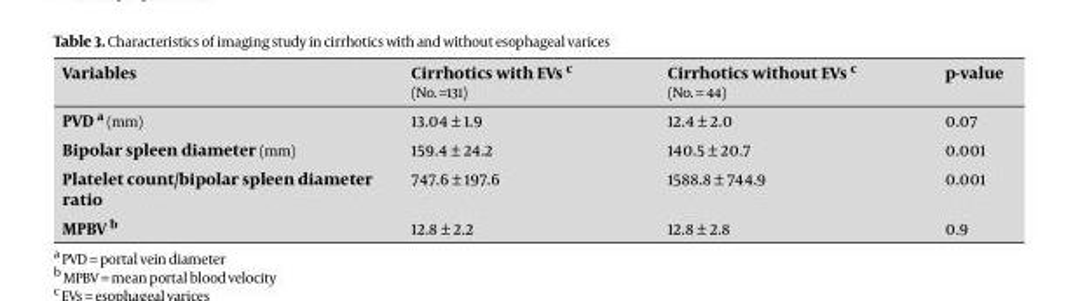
<table><thead><tr><td>Variables</td><td>Cirrhotics with EVs <sup>c</sup> (No. =131)</td><td>Cirrhotics without EVs c (No. = 44)</td><td>p-value</td></tr></thead><tbody><tr><td>PVD a (mm)</td><td>13.04 ± 1.9</td><td>12.4 ± 2.0</td><td>0.07</td></tr><tr><td>Bipolar spleen diameter (mm)</td><td>159.4 ± 24.2</td><td>140.5 ± 20.7</td><td>0.001</td></tr><tr><td>Platelet count/bipolar spleen diameter ratio</td><td>747.6 ± 197.6</td><td>1588.8 ± 744.9</td><td>0.001</td></tr><tr><td>MPBV b</td><td>12.8 ± 2.2</td><td>12.8 ± 2.8</td><td>0.9</td></tr></tbody></table>